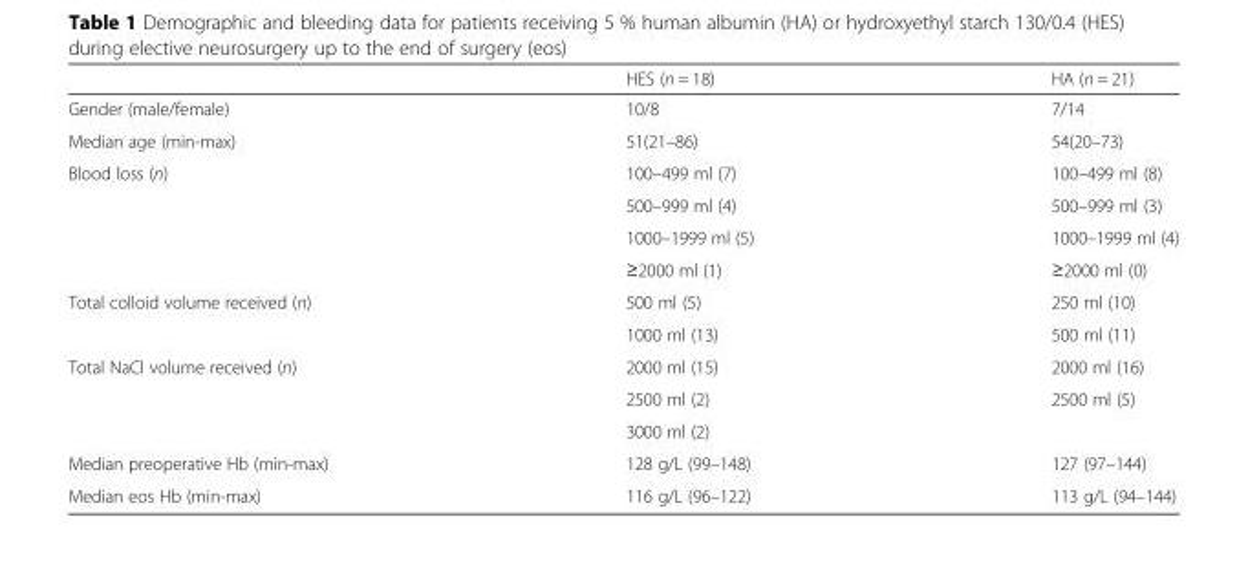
<table><thead><tr><td></td><td>HES (n = 18)</td><td>HA (n = 21)</td></tr></thead><tbody><tr><td>Gender (male/female)</td><td>10/8</td><td>7/14</td></tr><tr><td>Median age (min-max)</td><td>51(21–86)</td><td>54(20–73)</td></tr><tr><td rowspan="4">Blood loss (n)</td><td>100–499 ml (7)</td><td>100–499 ml (8)</td></tr><tr><td>500–999 ml (4)</td><td>500–999 ml (3)</td></tr><tr><td>1000–1999 ml (5)</td><td>1000–1999 ml (4)</td></tr><tr><td>≥2000 ml (1)</td><td>≥2000 ml (0)</td></tr><tr><td rowspan="2">Total colloid volume received (n)</td><td>500 ml (5)</td><td>250 ml (10)</td></tr><tr><td>1000 ml (13)</td><td>500 ml (11)</td></tr><tr><td rowspan="3">Total NaCl volume received (n)</td><td>2000 ml (15)</td><td>2000 ml (16)</td></tr><tr><td>2500 ml (2)</td><td>2500 ml (5)</td></tr><tr><td>3000 ml (2)</td><td></td></tr><tr><td>Median preoperative Hb (min-max)</td><td>128 g/L (99–148)</td><td>127 (97–144)</td></tr><tr><td>Median eos Hb (min-max)</td><td>116 g/L (96–122)</td><td>113 g/L (94–144)</td></tr></tbody></table>